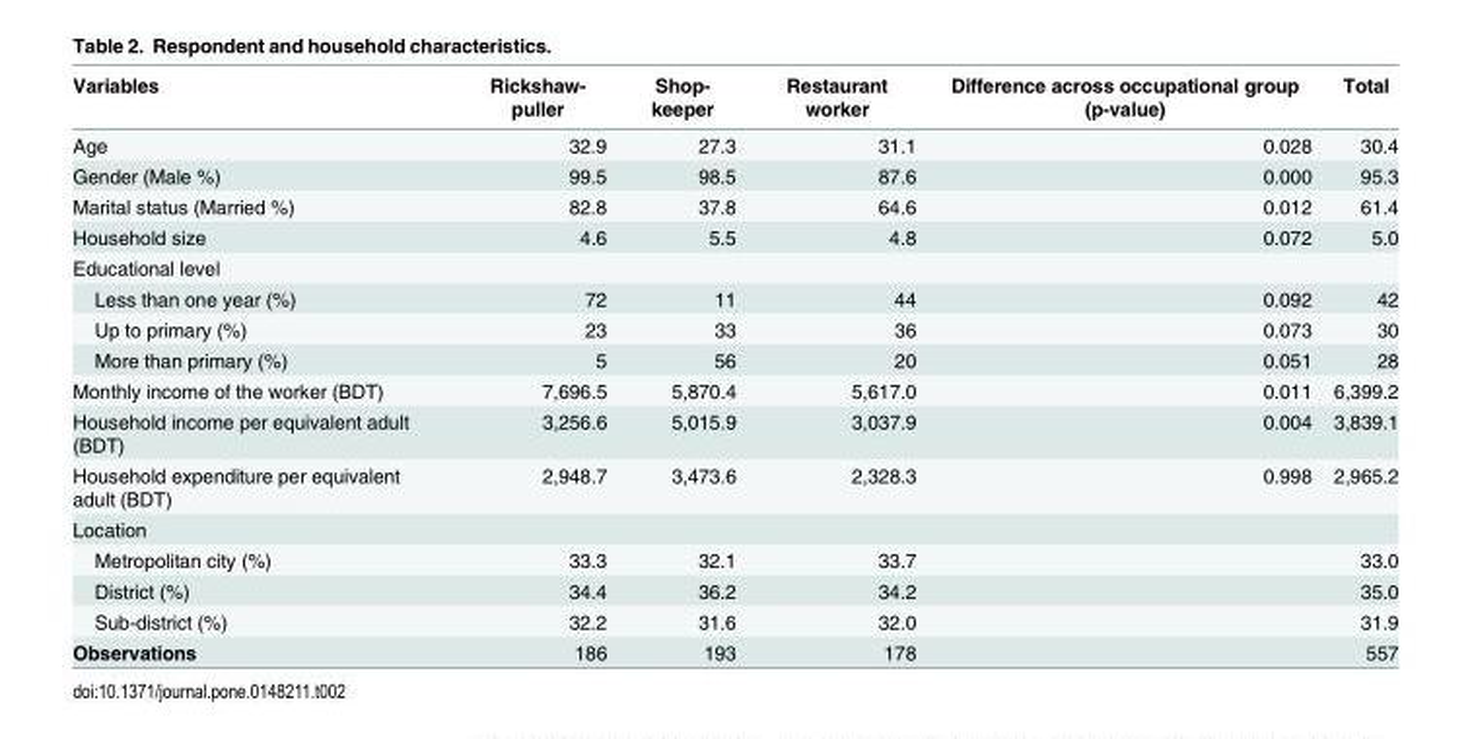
<table><thead><tr><td>Variables</td><td>Rickshaw- puller</td><td>Shop- keeper</td><td>Restaurant worker</td><td>Difference across occupational group (p-value)</td><td>Total</td></tr></thead><tbody><tr><td>Age</td><td>32.9</td><td>27.3</td><td>31.1</td><td>0.028</td><td>30.4</td></tr><tr><td>Gender (Male %)</td><td>99.5</td><td>98.5</td><td>87.6</td><td>0.000</td><td>95.3</td></tr><tr><td>Marital status (Married %)</td><td>82.8</td><td>37.8</td><td>64.6</td><td>0.012</td><td>61.4</td></tr><tr><td>Household size</td><td>4.6</td><td>5.5</td><td>4.8</td><td>0.072</td><td>5.0</td></tr><tr><td colspan="6">Educational level</td></tr><tr><td>Less than one year (%)</td><td>72</td><td>11</td><td>44</td><td>0.092</td><td>42</td></tr><tr><td>Up to primary (%)</td><td>23</td><td>33</td><td>36</td><td>0.073</td><td>30</td></tr><tr><td>More than primary (%)</td><td>5</td><td>56</td><td>20</td><td>0.051</td><td>28</td></tr><tr><td>Monthly income of the worker (BDT)</td><td>7,696.5</td><td>5,870.4</td><td>5,617.0</td><td>0.011</td><td>6,399.2</td></tr><tr><td>Household income per equivalent adult (BDT)</td><td>3,256.6</td><td>5,015.9</td><td>3,037.9</td><td>0.004</td><td>3,839.1</td></tr><tr><td>Household expenditure per equivalent adult (BDT)</td><td>2,948.7</td><td>3,473.6</td><td>2,328.3</td><td>0.998</td><td>2,965.2</td></tr><tr><td colspan="6">Location</td></tr><tr><td>Metropolitan city (%)</td><td>33.3</td><td>32.1</td><td>33.7</td><td></td><td>33.0</td></tr><tr><td>District (%)</td><td>34.4</td><td>36.2</td><td>34.2</td><td></td><td>35.0</td></tr><tr><td>Sub-district (%)</td><td>32.2</td><td>31.6</td><td>32.0</td><td></td><td>31.9</td></tr><tr><td>Observations</td><td>186</td><td>193</td><td>178</td><td></td><td>557</td></tr></tbody></table>